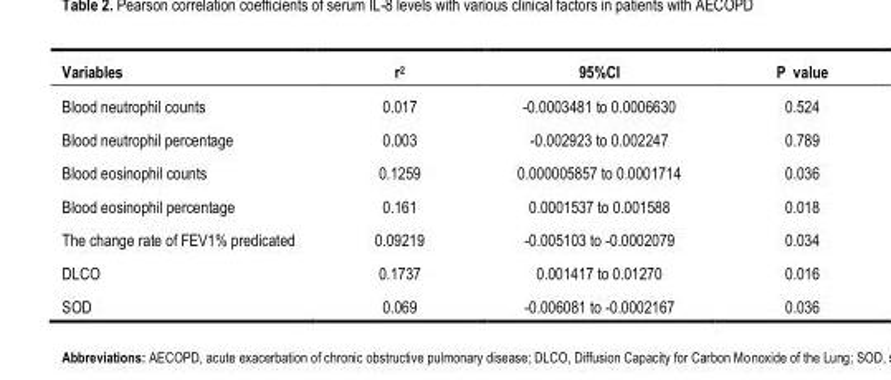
<table><thead><tr><td>Variables</td><td>r<sup>2</sup></td><td>95%CI</td><td>P value</td></tr></thead><tbody><tr><td>Blood neutrophil counts</td><td>0.017</td><td>-0.0003481 to 0.0006630</td><td>0.524</td></tr><tr><td>Blood neutrophil percentage</td><td>0.003</td><td>-0.002923 to 0.002247</td><td>0.789</td></tr><tr><td>Blood eosinophil counts</td><td>0.1259</td><td>0.000005857 to 0.0001714</td><td>0.036</td></tr><tr><td>Blood eosinophil percentage</td><td>0.161</td><td>0.0001537 to 0.001588</td><td>0.018</td></tr><tr><td>The change rate of FEV1% predicated</td><td>0.09219</td><td>-0.005103 to -0.0002079</td><td>0.034</td></tr><tr><td>DLCO</td><td>0.1737</td><td>0.001417 to 0.01270</td><td>0.016</td></tr><tr><td>SOD</td><td>0.069</td><td>-0.006081 to -0.0002167</td><td>0.036</td></tr></tbody></table>